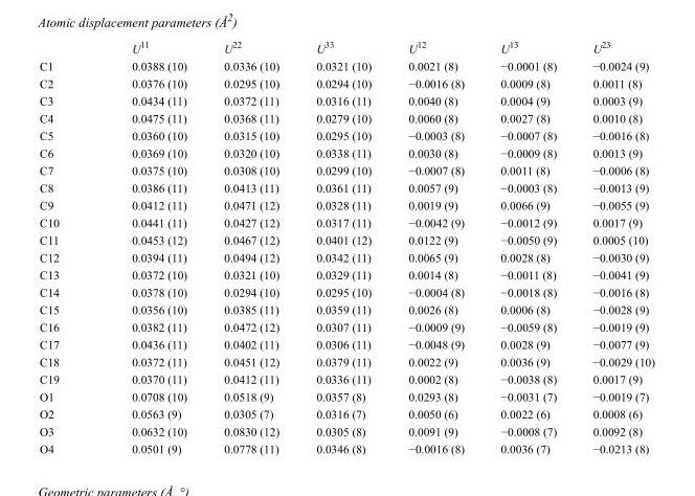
<table><thead><tr><td></td><td>U<sup>11</sup></td><td>U<sup>22</sup></td><td>U<sup>33</sup></td><td>U<sup>12</sup></td><td>U<sup>13</sup></td><td>U<sup>23</sup></td></tr></thead><tbody><tr><td>C1</td><td>0.0388 (10)</td><td>0.0336 (10)</td><td>0.0321 (10)</td><td>0.0021 (8)</td><td>−0.0001 (8)</td><td>−0.0024 (9)</td></tr><tr><td>C2</td><td>0.0376 (10)</td><td>0.0295 (10)</td><td>0.0294 (10)</td><td>−0.0016 (8)</td><td>0.0009 (8)</td><td>0.0011 (8)</td></tr><tr><td>C3</td><td>0.0434 (11)</td><td>0.0372 (11)</td><td>0.0316 (11)</td><td>0.0040 (8)</td><td>0.0004 (9)</td><td>0.0003 (9)</td></tr><tr><td>C4</td><td>0.0475 (11)</td><td>0.0368 (11)</td><td>0.0279 (10)</td><td>0.0060 (8)</td><td>0.0027 (8)</td><td>0.0010 (8)</td></tr><tr><td>C5</td><td>0.0360 (10)</td><td>0.0315 (10)</td><td>0.0295 (10)</td><td>−0.0003 (8)</td><td>−0.0007 (8)</td><td>−0.0016 (8)</td></tr><tr><td>C6</td><td>0.0369 (10)</td><td>0.0320 (10)</td><td>0.0338 (11)</td><td>0.0030 (8)</td><td>−0.0009 (8)</td><td>0.0013 (9)</td></tr><tr><td>C7</td><td>0.0375 (10)</td><td>0.0308 (10)</td><td>0.0299 (10)</td><td>−0.0007 (8)</td><td>0.0011 (8)</td><td>−0.0006 (8)</td></tr><tr><td>C8</td><td>0.0386 (11)</td><td>0.0413 (11)</td><td>0.0361 (11)</td><td>0.0057 (9)</td><td>−0.0003 (8)</td><td>−0.0013 (9)</td></tr><tr><td>C9</td><td>0.0412 (11)</td><td>0.0471 (12)</td><td>0.0328 (11)</td><td>0.0019 (9)</td><td>0.0066 (9)</td><td>−0.0055 (9)</td></tr><tr><td>C10</td><td>0.0441 (11)</td><td>0.0427 (12)</td><td>0.0317 (11)</td><td>−0.0042 (9)</td><td>−0.0012 (9)</td><td>0.0017 (9)</td></tr><tr><td>C11</td><td>0.0453 (12)</td><td>0.0467 (12)</td><td>0.0401 (12)</td><td>0.0122 (9)</td><td>−0.0050 (9)</td><td>0.0005 (10)</td></tr><tr><td>C12</td><td>0.0394 (11)</td><td>0.0494 (12)</td><td>0.0342 (11)</td><td>0.0065 (9)</td><td>0.0028 (8)</td><td>−0.0030 (9)</td></tr><tr><td>C13</td><td>0.0372 (10)</td><td>0.0321 (10)</td><td>0.0329 (11)</td><td>0.0014 (8)</td><td>−0.0011 (8)</td><td>−0.0041 (9)</td></tr><tr><td>C14</td><td>0.0378 (10)</td><td>0.0294 (10)</td><td>0.0295 (10)</td><td>−0.0004 (8)</td><td>−0.0018 (8)</td><td>−0.0016 (8)</td></tr><tr><td>C15</td><td>0.0356 (10)</td><td>0.0385 (11)</td><td>0.0359 (11)</td><td>0.0026 (8)</td><td>0.0006 (8)</td><td>−0.0028 (9)</td></tr><tr><td>C16</td><td>0.0382 (11)</td><td>0.0472 (12)</td><td>0.0307 (11)</td><td>−0.0009 (9)</td><td>−0.0059 (8)</td><td>−0.0019 (9)</td></tr><tr><td>C17</td><td>0.0436 (11)</td><td>0.0402 (11)</td><td>0.0306 (11)</td><td>−0.0048 (9)</td><td>0.0028 (9)</td><td>−0.0077 (9)</td></tr><tr><td>C18</td><td>0.0372 (11)</td><td>0.0451 (12)</td><td>0.0379 (11)</td><td>0.0022 (9)</td><td>0.0036 (9)</td><td>−0.0029 (10)</td></tr><tr><td>C19</td><td>0.0370 (11)</td><td>0.0412 (11)</td><td>0.0336 (11)</td><td>0.0002 (8)</td><td>−0.0038 (8)</td><td>0.0017 (9)</td></tr><tr><td>O1</td><td>0.0708 (10)</td><td>0.0518 (9)</td><td>0.0357 (8)</td><td>0.0293 (8)</td><td>−0.0031 (7)</td><td>−0.0019 (7)</td></tr><tr><td>O2</td><td>0.0563 (9)</td><td>0.0305 (7)</td><td>0.0316 (7)</td><td>0.0050 (6)</td><td>0.0022 (6)</td><td>0.0008 (6)</td></tr><tr><td>O3</td><td>0.0632 (10)</td><td>0.0830 (12)</td><td>0.0305 (8)</td><td>0.0091 (9)</td><td>−0.0008 (7)</td><td>0.0092 (8)</td></tr><tr><td>O4</td><td>0.0501 (9)</td><td>0.0778 (11)</td><td>0.0346 (8)</td><td>−0.0016 (8)</td><td>0.0036 (7)</td><td>−0.0213 (8)</td></tr></tbody></table>